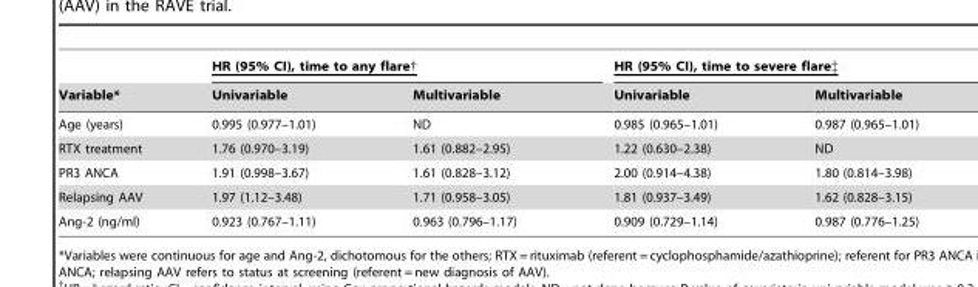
<table><thead><tr><td rowspan="2">Variable*</td><td colspan="2">HR (95% CI), time to any flare†</td><td colspan="2">HR (95% CI), time to severe flare‡</td></tr><tr><td>Univariable</td><td>Multivariable</td><td>Univariable</td><td>Multivariable</td></tr></thead><tbody><tr><td>Age (years)</td><td>0.995 (0.977–1.01)</td><td>ND</td><td>0.985 (0.965–1.01)</td><td>0.987 (0.965–1.01)</td></tr><tr><td>RTX treatment</td><td>1.76 (0.970–3.19)</td><td>1.61 (0.882–2.95)</td><td>1.22 (0.630–2.38)</td><td>ND</td></tr><tr><td>PR3 ANCA</td><td>1.91 (0.998–3.67)</td><td>1.61 (0.828–3.12)</td><td>2.00 (0.914–4.38)</td><td>1.80 (0.814–3.98)</td></tr><tr><td>Relapsing AAV</td><td>1.97 (1.12–3.48)</td><td>1.71 (0.958–3.05)</td><td>1.81 (0.937–3.49)</td><td>1.62 (0.828–3.15)</td></tr><tr><td>Ang-2 (ng/ml)</td><td>0.923 (0.767–1.11)</td><td>0.963 (0.796–1.17)</td><td>0.909 (0.729–1.14)</td><td>0.987 (0.776–1.25)</td></tr></tbody></table>